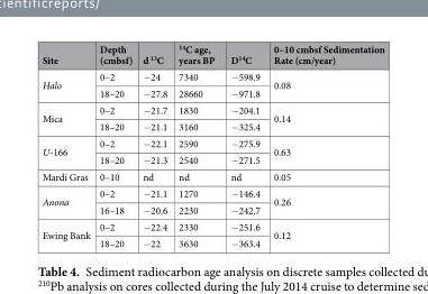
<table><thead><tr><td>Site</td><td>Depth (cmbsf)</td><td>d <sup>13</sup>C</td><td><sup>14</sup>C age, years BP</td><td>D<sup>14</sup>C</td><td>0–10 cmbsf Sedimentation Rate (cm/year)</td></tr></thead><tbody><tr><td rowspan="2">Halo</td><td>0–2</td><td>−24</td><td>7340</td><td>−598.9</td><td rowspan="2">0.08</td></tr><tr><td>18–20</td><td>−27.8</td><td>28660</td><td>−971.8</td></tr><tr><td rowspan="2">Mica</td><td>0–2</td><td>−21.7</td><td>1830</td><td>−204.1</td><td rowspan="2">0.14</td></tr><tr><td>18–20</td><td>−21.1</td><td>3160</td><td>−325.4</td></tr><tr><td rowspan="2">U-166</td><td>0–2</td><td>−22.1</td><td>2590</td><td>−275.9</td><td rowspan="2">0.63</td></tr><tr><td>18–20</td><td>−21.3</td><td>2540</td><td>−271.5</td></tr><tr><td>Mardi Gras</td><td>0–10</td><td>nd</td><td>nd</td><td>nd</td><td>0.05</td></tr><tr><td rowspan="2">Anona</td><td>0–2</td><td>−21.1</td><td>1270</td><td>−146.4</td><td rowspan="2">0.26</td></tr><tr><td>16–18</td><td>−20.6</td><td>2230</td><td>−242.7</td></tr><tr><td rowspan="2">Ewing Bank</td><td>0–2</td><td>−22.4</td><td>2330</td><td>−251.6</td><td rowspan="2">0.12</td></tr><tr><td>18–20</td><td>−22</td><td>3630</td><td>−363.4</td></tr></tbody></table>